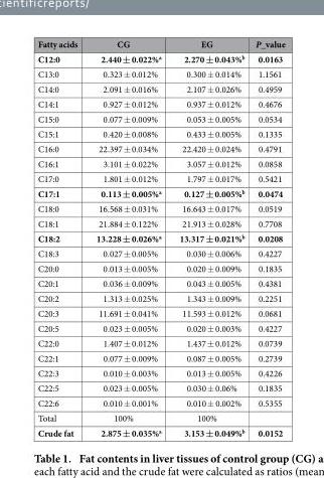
<table><thead><tr><td>Fatty acids</td><td>CG</td><td>EG</td><td>P_value</td></tr></thead><tbody><tr><td>C12:0</td><td>2.440 ± 0.022%<sup>a</sup></td><td>2.270 ± 0.043%<sup>b</sup></td><td>0.0163</td></tr><tr><td>C13:0</td><td>0.323 ± 0.012%</td><td>0.300 ± 0.014%</td><td>1.1561</td></tr><tr><td>C14:0</td><td>2.091 ± 0.016%</td><td>2.107 ± 0.026%</td><td>0.4959</td></tr><tr><td>C14:1</td><td>0.927 ± 0.012%</td><td>0.937 ± 0.012%</td><td>0.4676</td></tr><tr><td>C15:0</td><td>0.077 ± 0.009%</td><td>0.053 ± 0.005%</td><td>0.0534</td></tr><tr><td>C15:1</td><td>0.420 ± 0.008%</td><td>0.433 ± 0.005%</td><td>0.1335</td></tr><tr><td>C16:0</td><td>22.397 ± 0.034%</td><td>22.420 ± 0.024%</td><td>0.4791</td></tr><tr><td>C16:1</td><td>3.101 ± 0.022%</td><td>3.057 ± 0.012%</td><td>0.0858</td></tr><tr><td>C17:0</td><td>1.801 ± 0.012%</td><td>1.797 ± 0.017%</td><td>0.5421</td></tr><tr><td>C17:1</td><td>0.113 ± 0.005%<sup>a</sup></td><td>0.127 ± 0.005%<sup>b</sup></td><td>0.0474</td></tr><tr><td>C18:0</td><td>16.568 ± 0.031%</td><td>16.643 ± 0.017%</td><td>0.0519</td></tr><tr><td>C18:1</td><td>21.884 ± 0.122%</td><td>21.913 ± 0.028%</td><td>0.7708</td></tr><tr><td>C18:2</td><td>13.228 ± 0.026%<sup>a</sup></td><td>13.317 ± 0.021%<sup>b</sup></td><td>0.0208</td></tr><tr><td>C18:3</td><td>0.027 ± 0.005%</td><td>0.030 ± 0.006%</td><td>0.4227</td></tr><tr><td>C20:0</td><td>0.013 ± 0.005%</td><td>0.020 ± 0.009%</td><td>0.1835</td></tr><tr><td>C20:1</td><td>0.036 ± 0.009%</td><td>0.043 ± 0.005%</td><td>0.4381</td></tr><tr><td>C20:2</td><td>1.313 ± 0.025%</td><td>1.343 ± 0.009%</td><td>0.2251</td></tr><tr><td>C20:3</td><td>11.691 ± 0.041%</td><td>11.593 ± 0.012%</td><td>0.0681</td></tr><tr><td>C20:5</td><td>0.023 ± 0.005%</td><td>0.020 ± 0.003%</td><td>0.4227</td></tr><tr><td>C22:0</td><td>1.407 ± 0.012%</td><td>1.437 ± 0.012%</td><td>0.0739</td></tr><tr><td>C22:1</td><td>0.077 ± 0.009%</td><td>0.087 ± 0.005%</td><td>0.2739</td></tr><tr><td>C22:3</td><td>0.010 ± 0.003%</td><td>0.013 ± 0.005%</td><td>0.4226</td></tr><tr><td>C22:5</td><td>0.023 ± 0.005%</td><td>0.030 ± 0.06%</td><td>0.1835</td></tr><tr><td>C22:6</td><td>0.010 ± 0.001%</td><td>0.010 ± 0.002%</td><td>0.5355</td></tr><tr><td>Total</td><td>100%</td><td>100%</td><td></td></tr><tr><td>Crude fat</td><td>2.875 ± 0.035%<sup>a</sup></td><td>3.153 ± 0.049%<sup>b</sup></td><td>0.0152</td></tr></tbody></table>